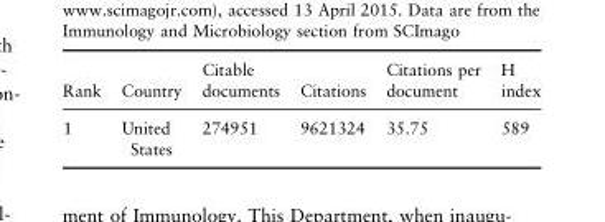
<table><thead><tr><td>Rank</td><td>Country</td><td>Citable documents</td><td>Citations</td><td>Citations per document</td><td>H index</td></tr></thead><tbody><tr><td>1</td><td>United States</td><td>274951</td><td>9621324</td><td>35.75</td><td>589</td></tr></tbody></table>